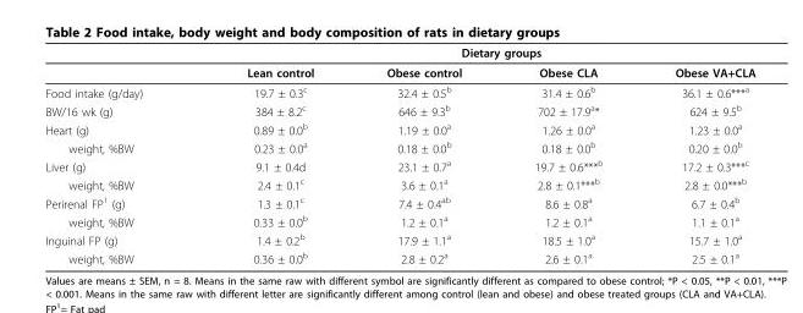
<table><thead><tr><td rowspan="2"></td><td colspan="4">Dietary groups</td></tr><tr><td>Lean control</td><td>Obese control</td><td>Obese CLA</td><td>Obese VA+CLA</td></tr></thead><tbody><tr><td>Food intake (g/day)</td><td>19.7 ± 0.3<sup>c</sup></td><td>32.4 ± 0.5<sup>b</sup></td><td>31.4 ± 0.6<sup>b</sup></td><td>36.1 ± 0.6***<sup>a</sup></td></tr><tr><td>BW/16 wk (g)</td><td>384 ± 8.2<sup>c</sup></td><td>646 ± 9.3<sup>b</sup></td><td>702 ± 17.9<sup>a</sup>*</td><td>624 ± 9.5<sup>b</sup></td></tr><tr><td>Heart (g)</td><td>0.89 ± 0.0<sup>b</sup></td><td>1.19 ± 0.0<sup>a</sup></td><td>1.26 ± 0.0<sup>a</sup></td><td>1.23 ± 0.0<sup>a</sup></td></tr><tr><td>weight, %BW</td><td>0.23 ± 0.0<sup>a</sup></td><td>0.18 ± 0.0<sup>b</sup></td><td>0.18 ± 0.0<sup>b</sup></td><td>0.20 ± 0.0<sup>b</sup></td></tr><tr><td>Liver (g)</td><td>9.1 ± 0.4d</td><td>23.1 ± 0.7<sup>a</sup></td><td>19.7 ± 0.6***<sup>b</sup></td><td>17.2 ± 0.3***<sup>c</sup></td></tr><tr><td>weight, %BW</td><td>2.4 ± 0.1<sup>c</sup></td><td>3.6 ± 0.1<sup>a</sup></td><td>2.8 ± 0.1***<sup>b</sup></td><td>2.8 ± 0.0***<sup>b</sup></td></tr><tr><td>Perirenal FP<sup>1</sup> (g)</td><td>1.3 ± 0.1<sup>c</sup></td><td>7.4 ± 0.4<sup>ab</sup></td><td>8.6 ± 0.8<sup>a</sup></td><td>6.7 ± 0.4<sup>b</sup></td></tr><tr><td>weight, %BW</td><td>0.33 ± 0.0<sup>b</sup></td><td>1.2 ± 0.1<sup>a</sup></td><td>1.2 ± 0.1<sup>a</sup></td><td>1.1 ± 0.1<sup>a</sup></td></tr><tr><td>Inguinal FP (g)</td><td>1.4 ± 0.2<sup>b</sup></td><td>17.9 ± 1.1<sup>a</sup></td><td>18.5 ± 1.0<sup>a</sup></td><td>15.7 ± 1.0<sup>a</sup></td></tr><tr><td>weight, %BW</td><td>0.36 ± 0.0<sup>b</sup></td><td>2.8 ± 0.2<sup>a</sup></td><td>2.6 ± 0.1<sup>a</sup></td><td>2.5 ± 0.1<sup>a</sup></td></tr></tbody></table>